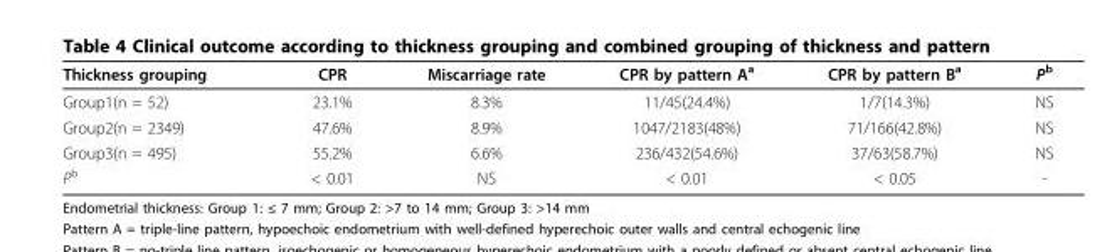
<table><thead><tr><td>Thickness grouping</td><td>CPR</td><td>Miscarriage rate</td><td>CPR by pattern A<sup>a</sup></td><td>CPR by pattern B<sup>a</sup></td><td>P<sup>b</sup></td></tr></thead><tbody><tr><td>Group1(n = 52)</td><td>23.1%</td><td>8.3%</td><td>11/45(24.4%)</td><td>1/7(14.3%)</td><td>NS</td></tr><tr><td>Group2(n = 2349)</td><td>47.6%</td><td>8.9%</td><td>1047/2183(48%)</td><td>71/166(42.8%)</td><td>NS</td></tr><tr><td>Group3(n = 495)</td><td>55.2%</td><td>6.6%</td><td>236/432(54.6%)</td><td>37/63(58.7%)</td><td>NS</td></tr><tr><td>P<sup>b</sup></td><td>&lt; 0.01</td><td>NS</td><td>&lt; 0.01</td><td>&lt; 0.05</td><td>-</td></tr></tbody></table>